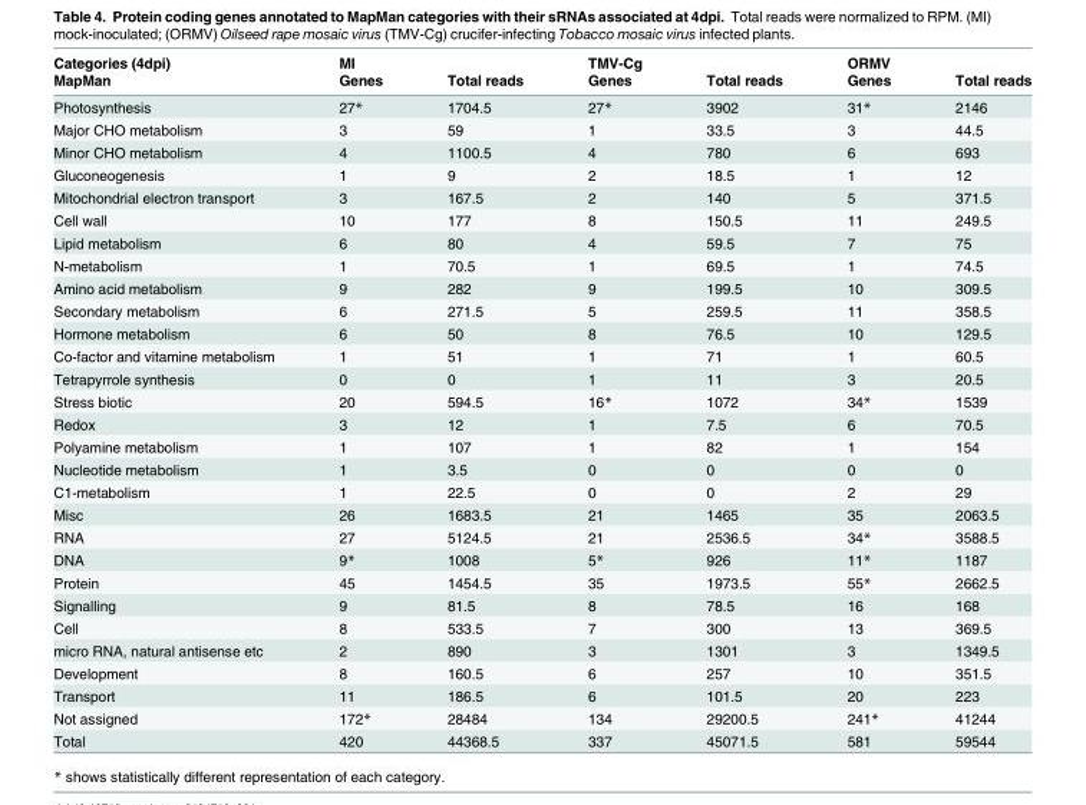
<table><thead><tr><td rowspan="2">Categories (4dpi) MapMan</td><td rowspan="2">MI Genes</td><td rowspan="2">Total reads</td><td rowspan="2">TMV-Cg Genes</td><td rowspan="2">Total reads</td><td rowspan="2">ORMV Genes</td><td rowspan="2">Total reads</td></tr><tr></tr></thead><tbody><tr><td>Photosynthesis</td><td>27*</td><td>1704.5</td><td>27*</td><td>3902</td><td>31*</td><td>2146</td></tr><tr><td>Major CHO metabolism</td><td>3</td><td>59</td><td>1</td><td>33.5</td><td>3</td><td>44.5</td></tr><tr><td>Minor CHO metabolism</td><td>4</td><td>1100.5</td><td>4</td><td>780</td><td>6</td><td>693</td></tr><tr><td>Gluconeogenesis</td><td>1</td><td>9</td><td>2</td><td>18.5</td><td>1</td><td>12</td></tr><tr><td>Mitochondrial electron transport</td><td>3</td><td>167.5</td><td>2</td><td>140</td><td>5</td><td>371.5</td></tr><tr><td>Cell wall</td><td>10</td><td>177</td><td>8</td><td>150.5</td><td>11</td><td>249.5</td></tr><tr><td>Lipid metabolism</td><td>6</td><td>80</td><td>4</td><td>59.5</td><td>7</td><td>75</td></tr><tr><td>N-metabolism</td><td>1</td><td>70.5</td><td>1</td><td>69.5</td><td>1</td><td>74.5</td></tr><tr><td>Amino acid metabolism</td><td>9</td><td>282</td><td>9</td><td>199.5</td><td>10</td><td>309.5</td></tr><tr><td>Secondary metabolism</td><td>6</td><td>271.5</td><td>5</td><td>259.5</td><td>11</td><td>358.5</td></tr><tr><td>Hormone metabolism</td><td>6</td><td>50</td><td>8</td><td>76.5</td><td>10</td><td>129.5</td></tr><tr><td>Co-factor and vitamine metabolism</td><td>1</td><td>51</td><td>1</td><td>71</td><td>1</td><td>60.5</td></tr><tr><td>Tetrapyrrole synthesis</td><td>0</td><td>0</td><td>1</td><td>11</td><td>3</td><td>20.5</td></tr><tr><td>Stress biotic</td><td>20</td><td>594.5</td><td>16*</td><td>1072</td><td>34*</td><td>1539</td></tr><tr><td>Redox</td><td>3</td><td>12</td><td>1</td><td>7.5</td><td>6</td><td>70.5</td></tr><tr><td>Polyamine metabolism</td><td>1</td><td>107</td><td>1</td><td>82</td><td>1</td><td>154</td></tr><tr><td>Nucleotide metabolism</td><td>1</td><td>3.5</td><td>0</td><td>0</td><td>0</td><td>0</td></tr><tr><td>C1-metabolism</td><td>1</td><td>22.5</td><td>0</td><td>0</td><td>2</td><td>29</td></tr><tr><td>Misc</td><td>26</td><td>1683.5</td><td>21</td><td>1465</td><td>35</td><td>2063.5</td></tr><tr><td>RNA</td><td>27</td><td>5124.5</td><td>21</td><td>2536.5</td><td>34*</td><td>3588.5</td></tr><tr><td>DNA</td><td>9*</td><td>1008</td><td>5*</td><td>926</td><td>11*</td><td>1187</td></tr><tr><td>Protein</td><td>45</td><td>1454.5</td><td>35</td><td>1973.5</td><td>55*</td><td>2662.5</td></tr><tr><td>Signalling</td><td>9</td><td>81.5</td><td>8</td><td>78.5</td><td>16</td><td>168</td></tr><tr><td>Cell</td><td>8</td><td>533.5</td><td>7</td><td>300</td><td>13</td><td>369.5</td></tr><tr><td>micro RNA, natural antisense etc</td><td>2</td><td>890</td><td>3</td><td>1301</td><td>3</td><td>1349.5</td></tr><tr><td>Development</td><td>8</td><td>160.5</td><td>6</td><td>257</td><td>10</td><td>351.5</td></tr><tr><td>Transport</td><td>11</td><td>186.5</td><td>6</td><td>101.5</td><td>20</td><td>223</td></tr><tr><td>Not assigned</td><td>172*</td><td>28484</td><td>134</td><td>29200.5</td><td>241*</td><td>41244</td></tr><tr><td>Total</td><td>420</td><td>44368.5</td><td>337</td><td>45071.5</td><td>581</td><td>59544</td></tr></tbody></table>